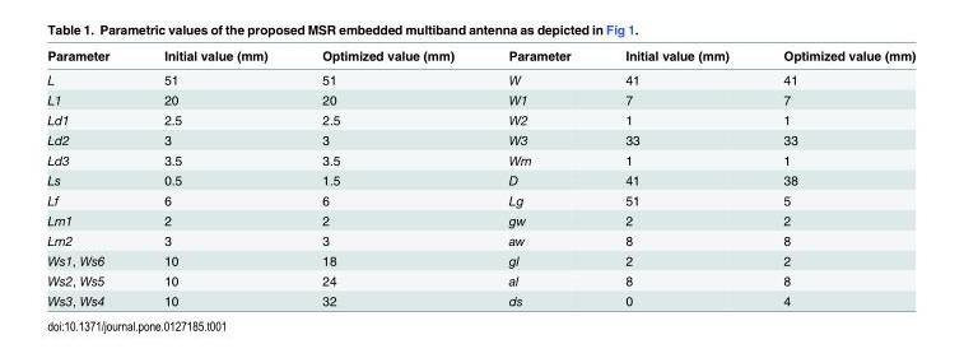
<table><thead><tr><td>Parameter</td><td>Initial value (mm)</td><td>Optimized value (mm)</td><td>Parameter</td><td>Initial value (mm)</td><td>Optimized value (mm)</td></tr></thead><tbody><tr><td>L</td><td>51</td><td>51</td><td>W</td><td>41</td><td>41</td></tr><tr><td>L1</td><td>20</td><td>20</td><td>W1</td><td>7</td><td>7</td></tr><tr><td>Ld1</td><td>2.5</td><td>2.5</td><td>W2</td><td>1</td><td>1</td></tr><tr><td>Ld2</td><td>3</td><td>3</td><td>W3</td><td>33</td><td>33</td></tr><tr><td>Ld3</td><td>3.5</td><td>3.5</td><td>Wm</td><td>1</td><td>1</td></tr><tr><td>Ls</td><td>0.5</td><td>1.5</td><td>D</td><td>41</td><td>38</td></tr><tr><td>Lf</td><td>6</td><td>6</td><td>Lg</td><td>51</td><td>5</td></tr><tr><td>Lm1</td><td>2</td><td>2</td><td>gw</td><td>2</td><td>2</td></tr><tr><td>Lm2</td><td>3</td><td>3</td><td>aw</td><td>8</td><td>8</td></tr><tr><td>Ws1, Ws6</td><td>10</td><td>18</td><td>gl</td><td>2</td><td>2</td></tr><tr><td>Ws2, Ws5</td><td>10</td><td>24</td><td>al</td><td>8</td><td>8</td></tr><tr><td>Ws3, Ws4</td><td>10</td><td>32</td><td>ds</td><td>0</td><td>4</td></tr></tbody></table>